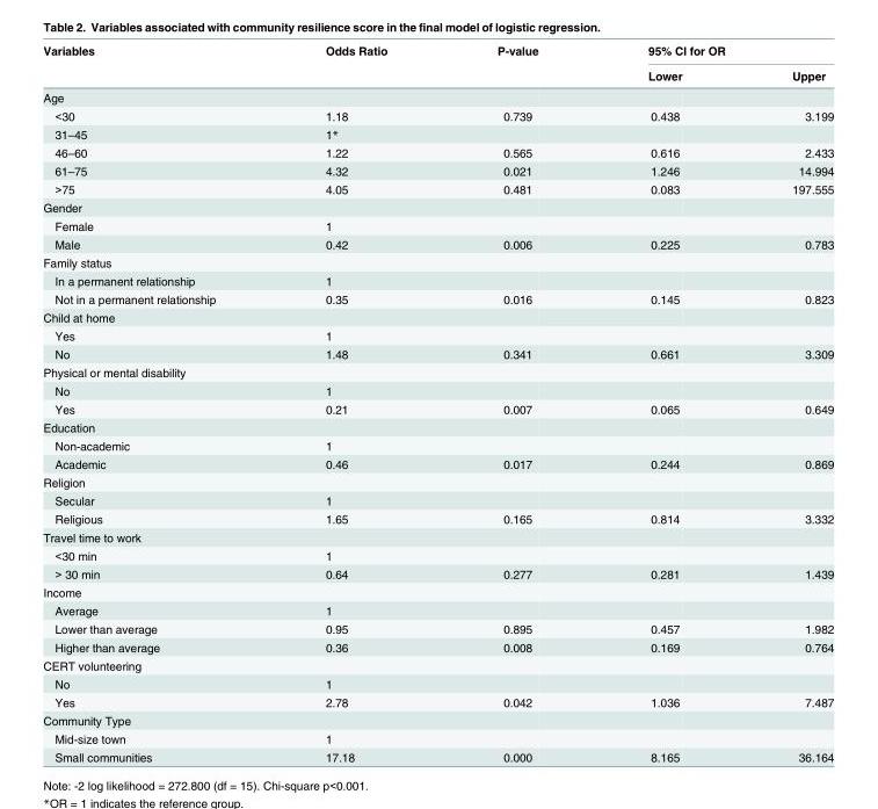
<table><thead><tr><td rowspan="2">Variables</td><td rowspan="2">Odds Ratio</td><td rowspan="2">P-value</td><td colspan="2">95% CI for OR</td></tr><tr><td>Lower</td><td>Upper</td></tr></thead><tbody><tr><td colspan="5">Age</td></tr><tr><td>&lt;30</td><td>1.18</td><td>0.739</td><td>0.438</td><td>3.199</td></tr><tr><td>31–45</td><td>1*</td><td></td><td></td><td></td></tr><tr><td>46–60</td><td>1.22</td><td>0.565</td><td>0.616</td><td>2.433</td></tr><tr><td>61–75</td><td>4.32</td><td>0.021</td><td>1.246</td><td>14.994</td></tr><tr><td>&gt;75</td><td>4.05</td><td>0.481</td><td>0.083</td><td>197.555</td></tr><tr><td colspan="5">Gender</td></tr><tr><td>Female</td><td>1</td><td></td><td></td><td></td></tr><tr><td>Male</td><td>0.42</td><td>0.006</td><td>0.225</td><td>0.783</td></tr><tr><td colspan="5">Family status</td></tr><tr><td>In a permanent relationship</td><td>1</td><td></td><td></td><td></td></tr><tr><td>Not in a permanent relationship</td><td>0.35</td><td>0.016</td><td>0.145</td><td>0.823</td></tr><tr><td colspan="5">Child at home</td></tr><tr><td>Yes</td><td>1</td><td></td><td></td><td></td></tr><tr><td>No</td><td>1.48</td><td>0.341</td><td>0.661</td><td>3.309</td></tr><tr><td colspan="5">Physical or mental disability</td></tr><tr><td>No</td><td>1</td><td></td><td></td><td></td></tr><tr><td>Yes</td><td>0.21</td><td>0.007</td><td>0.065</td><td>0.649</td></tr><tr><td colspan="5">Education</td></tr><tr><td>Non-academic</td><td>1</td><td></td><td></td><td></td></tr><tr><td>Academic</td><td>0.46</td><td>0.017</td><td>0.244</td><td>0.869</td></tr><tr><td colspan="5">Religion</td></tr><tr><td>Secular</td><td>1</td><td></td><td></td><td></td></tr><tr><td>Religious</td><td>1.65</td><td>0.165</td><td>0.814</td><td>3.332</td></tr><tr><td colspan="5">Travel time to work</td></tr><tr><td>&lt;30 min</td><td>1</td><td></td><td></td><td></td></tr><tr><td>&gt; 30 min</td><td>0.64</td><td>0.277</td><td>0.281</td><td>1.439</td></tr><tr><td colspan="5">Income</td></tr><tr><td>Average</td><td>1</td><td></td><td></td><td></td></tr><tr><td>Lower than average</td><td>0.95</td><td>0.895</td><td>0.457</td><td>1.982</td></tr><tr><td>Higher than average</td><td>0.36</td><td>0.008</td><td>0.169</td><td>0.764</td></tr><tr><td colspan="5">CERT volunteering</td></tr><tr><td>No</td><td>1</td><td></td><td></td><td></td></tr><tr><td>Yes</td><td>2.78</td><td>0.042</td><td>1.036</td><td>7.487</td></tr><tr><td colspan="5">Community Type</td></tr><tr><td>Mid-size town</td><td>1</td><td></td><td></td><td></td></tr><tr><td>Small communities</td><td>17.18</td><td>0.000</td><td>8.165</td><td>36.164</td></tr></tbody></table>